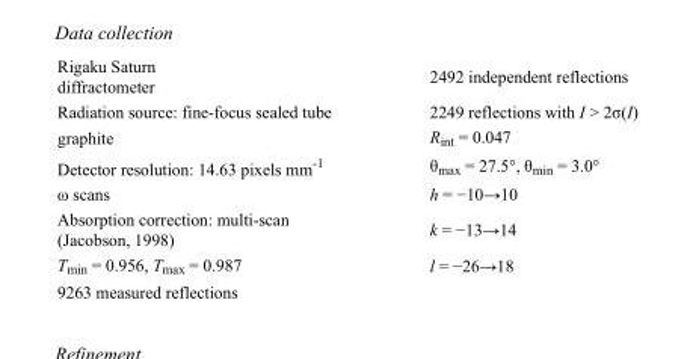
<table><tbody><tr><td>Rigaku Saturn diffractometer</td><td>2492 independent reflections</td></tr><tr><td>Radiation source: fine-focus sealed tube</td><td>2249 reflections with I &gt; 2σ(I)</td></tr><tr><td>graphite</td><td>R<sub>int</sub> = 0.047</td></tr><tr><td>Detector resolution: 14.63 pixels mm<sup>-1</sup></td><td>θ<sub>max</sub> = 27.5°, θ<sub>min</sub> = 3.0°</td></tr><tr><td>ω scans</td><td>h = −10→10</td></tr><tr><td>Absorption correction: multi-scan (Jacobson, 1998)</td><td>k = −13→14</td></tr><tr><td>T<sub>min</sub> = 0.956, T<sub>max</sub> = 0.987</td><td>l = −26→18</td></tr><tr><td>9263 measured reflections</td><td></td></tr></tbody></table>